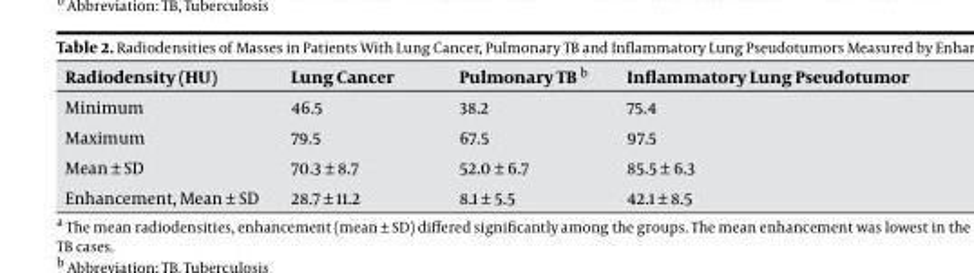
<table><thead><tr><td>Radiodensity (HU)</td><td>Lung Cancer</td><td>Pulmonary TB b</td><td>Inflammatory Lung Pseudotumor</td></tr></thead><tbody><tr><td>Minimum</td><td>46.5</td><td>38.2</td><td>75.4</td></tr><tr><td>Maximum</td><td>79.5</td><td>67.5</td><td>97.5</td></tr><tr><td>Mean ± SD</td><td>70.3 ± 8.7</td><td>52.0 ± 6.7</td><td>85.5 ± 6.3</td></tr><tr><td>Enhancement, Mean ± SD</td><td>28.7 ± 11.2</td><td>8.1 ± 5.5</td><td>42.1 ± 8.5</td></tr></tbody></table>